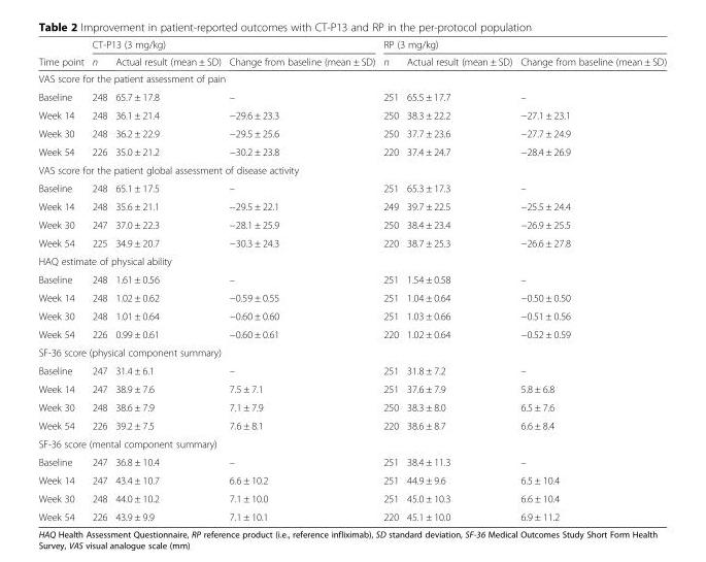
<table><thead><tr><td rowspan="2">Time point</td><td colspan="3">CT-P13 (3 mg/kg)</td><td colspan="3">RP (3 mg/kg)</td></tr><tr><td>n</td><td>Actual result (mean ± SD)</td><td>Change from baseline (mean ± SD)</td><td>n</td><td>Actual result (mean ± SD)</td><td>Change from baseline (mean ± SD)</td></tr></thead><tbody><tr><td colspan="7">VAS score for the patient assessment of pain</td></tr><tr><td>Baseline</td><td>248</td><td>65.7 ± 17.8</td><td>–</td><td>251</td><td>65.5 ± 17.7</td><td>–</td></tr><tr><td>Week 14</td><td>248</td><td>36.1 ± 21.4</td><td>−29.6 ± 23.3</td><td>250</td><td>38.3 ± 22.2</td><td>−27.1 ± 23.1</td></tr><tr><td>Week 30</td><td>248</td><td>36.2 ± 22.9</td><td>−29.5 ± 25.6</td><td>250</td><td>37.7 ± 23.6</td><td>−27.7 ± 24.9</td></tr><tr><td>Week 54</td><td>226</td><td>35.0 ± 21.2</td><td>−30.2 ± 23.8</td><td>220</td><td>37.4 ± 24.7</td><td>−28.4 ± 26.9</td></tr><tr><td colspan="7">VAS score for the patient global assessment of disease activity</td></tr><tr><td>Baseline</td><td>248</td><td>65.1 ± 17.5</td><td>–</td><td>251</td><td>65.3 ± 17.3</td><td>–</td></tr><tr><td>Week 14</td><td>248</td><td>35.6 ± 21.1</td><td>−29.5 ± 22.1</td><td>249</td><td>39.7 ± 22.5</td><td>−25.5 ± 24.4</td></tr><tr><td>Week 30</td><td>247</td><td>37.0 ± 22.3</td><td>−28.1 ± 25.9</td><td>250</td><td>38.4 ± 23.4</td><td>−26.9 ± 25.5</td></tr><tr><td>Week 54</td><td>225</td><td>34.9 ± 20.7</td><td>−30.3 ± 24.3</td><td>220</td><td>38.7 ± 25.3</td><td>−26.6 ± 27.8</td></tr><tr><td colspan="7">HAQ estimate of physical ability</td></tr><tr><td>Baseline</td><td>248</td><td>1.61 ± 0.56</td><td>–</td><td>251</td><td>1.54 ± 0.58</td><td>–</td></tr><tr><td>Week 14</td><td>248</td><td>1.02 ± 0.62</td><td>−0.59 ± 0.55</td><td>251</td><td>1.04 ± 0.64</td><td>−0.50 ± 0.50</td></tr><tr><td>Week 30</td><td>248</td><td>1.01 ± 0.64</td><td>−0.60 ± 0.60</td><td>251</td><td>1.03 ± 0.66</td><td>−0.51 ± 0.56</td></tr><tr><td>Week 54</td><td>226</td><td>0.99 ± 0.61</td><td>−0.60 ± 0.61</td><td>220</td><td>1.02 ± 0.64</td><td>−0.52 ± 0.59</td></tr><tr><td colspan="7">SF-36 score (physical component summary)</td></tr><tr><td>Baseline</td><td>247</td><td>31.4 ± 6.1</td><td>–</td><td>251</td><td>31.8 ± 7.2</td><td>–</td></tr><tr><td>Week 14</td><td>247</td><td>38.9 ± 7.6</td><td>7.5 ± 7.1</td><td>251</td><td>37.6 ± 7.9</td><td>5.8 ± 6.8</td></tr><tr><td>Week 30</td><td>248</td><td>38.6 ± 7.9</td><td>7.1 ± 7.9</td><td>250</td><td>38.3 ± 8.0</td><td>6.5 ± 7.6</td></tr><tr><td>Week 54</td><td>226</td><td>39.2 ± 7.5</td><td>7.6 ± 8.1</td><td>220</td><td>38.6 ± 8.7</td><td>6.6 ± 8.4</td></tr><tr><td colspan="7">SF-36 score (mental component summary)</td></tr><tr><td>Baseline</td><td>247</td><td>36.8 ± 10.4</td><td>–</td><td>251</td><td>38.4 ± 11.3</td><td>–</td></tr><tr><td>Week 14</td><td>247</td><td>43.4 ± 10.7</td><td>6.6 ± 10.2</td><td>251</td><td>44.9 ± 9.6</td><td>6.5 ± 10.4</td></tr><tr><td>Week 30</td><td>248</td><td>44.0 ± 10.2</td><td>7.1 ± 10.0</td><td>251</td><td>45.0 ± 10.3</td><td>6.6 ± 10.4</td></tr><tr><td>Week 54</td><td>226</td><td>43.9 ± 9.9</td><td>7.1 ± 10.1</td><td>220</td><td>45.1 ± 10.0</td><td>6.9 ± 11.2</td></tr></tbody></table>